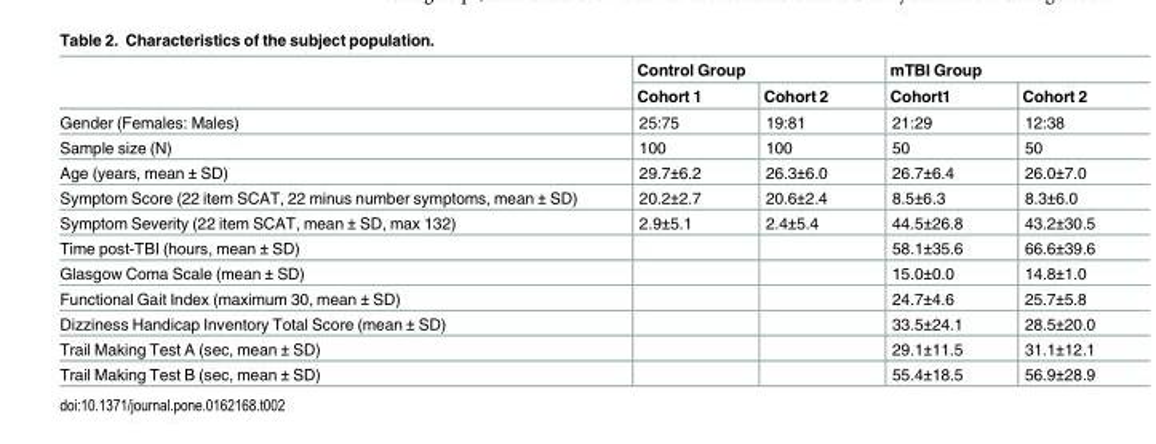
<table><thead><tr><td rowspan="2"></td><td colspan="2">Control Group</td><td colspan="2">mTBI Group</td></tr><tr><td>Cohort 1</td><td>Cohort 2</td><td>Cohort1</td><td>Cohort 2</td></tr></thead><tbody><tr><td>Gender (Females: Males)</td><td>25:75</td><td>19:81</td><td>21:29</td><td>12:38</td></tr><tr><td>Sample size (N)</td><td>100</td><td>100</td><td>50</td><td>50</td></tr><tr><td>Age (years, mean ± SD)</td><td>29.7±6.2</td><td>26.3±6.0</td><td>26.7±6.4</td><td>26.0±7.0</td></tr><tr><td>Symptom Score (22 item SCAT, 22 minus number symptoms, mean ± SD)</td><td>20.2±2.7</td><td>20.6±2.4</td><td>8.5±6.3</td><td>8.3±6.0</td></tr><tr><td>Symptom Severity (22 item SCAT, mean ± SD, max 132)</td><td>2.9±5.1</td><td>2.4±5.4</td><td>44.5±26.8</td><td>43.2±30.5</td></tr><tr><td>Time post-TBI (hours, mean ± SD)</td><td></td><td></td><td>58.1±35.6</td><td>66.6±39.6</td></tr><tr><td>Glasgow Coma Scale (mean ± SD)</td><td></td><td></td><td>15.0±0.0</td><td>14.8±1.0</td></tr><tr><td>Functional Gait Index (maximum 30, mean ± SD)</td><td></td><td></td><td>24.7±4.6</td><td>25.7±5.8</td></tr><tr><td>Dizziness Handicap Inventory Total Score (mean ± SD)</td><td></td><td></td><td>33.5±24.1</td><td>28.5±20.0</td></tr><tr><td>Trail Making Test A (sec, mean ± SD)</td><td></td><td></td><td>29.1±11.5</td><td>31.1±12.1</td></tr><tr><td>Trail Making Test B (sec, mean ± SD)</td><td></td><td></td><td>55.4±18.5</td><td>56.9±28.9</td></tr></tbody></table>